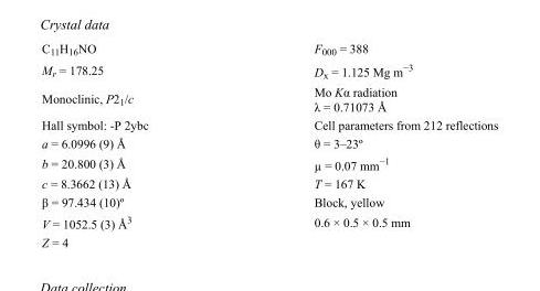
<table><tbody><tr><td>C<sub>11</sub>H<sub>16</sub>NO</td><td>F000 = 388</td></tr><tr><td>M<sub>r</sub> = 178.25</td><td>D<sub>x</sub> = 1.125 Mg m<sup>−3</sup></td></tr><tr><td>Monoclinic, P2<sub>1</sub>/c</td><td>Mo Kα radiation λ = 0.71073 Å</td></tr><tr><td>Hall symbol: -P 2ybc</td><td>Cell parameters from 212 reflections</td></tr><tr><td>a = 6.0996 (9) Å</td><td>θ = 3–23º</td></tr><tr><td>b = 20.800 (3) Å</td><td>µ = 0.07 mm<sup>−1</sup></td></tr><tr><td>c = 8.3662 (13) Å</td><td>T = 167 K</td></tr><tr><td>β = 97.434 (10)º</td><td>Block, yellow</td></tr><tr><td>V = 1052.5 (3) Å<sup>3</sup></td><td>0.6 × 0.5 × 0.5 mm</td></tr><tr><td>Z = 4</td><td></td></tr></tbody></table>